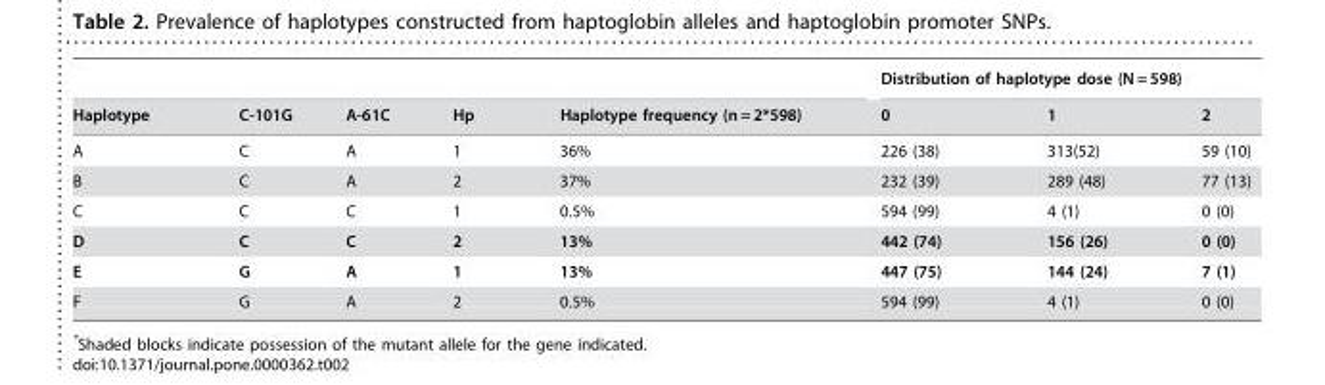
<table><thead><tr><td rowspan="2">Haplotype</td><td rowspan="2">C-101G</td><td rowspan="2">A-61C</td><td rowspan="2">Hp</td><td rowspan="2">Haplotype frequency (n = 2*598)</td><td colspan="3">Distribution of haplotype dose (N = 598)</td></tr><tr><td>0</td><td>1</td><td>2</td></tr></thead><tbody><tr><td>A</td><td>C</td><td>A</td><td>1</td><td>36%</td><td>226 (38)</td><td>313(52)</td><td>59 (10)</td></tr><tr><td>B</td><td>C</td><td>A</td><td>2</td><td>37%</td><td>232 (39)</td><td>289 (48)</td><td>77 (13)</td></tr><tr><td>C</td><td>C</td><td>C</td><td>1</td><td>0.5%</td><td>594 (99)</td><td>4 (1)</td><td>0 (0)</td></tr><tr><td>D</td><td>C</td><td>C</td><td>2</td><td>13%</td><td>442 (74)</td><td>156 (26)</td><td>0 (0)</td></tr><tr><td>E</td><td>G</td><td>A</td><td>1</td><td>13%</td><td>447 (75)</td><td>144 (24)</td><td>7 (1)</td></tr><tr><td>F</td><td>G</td><td>A</td><td>2</td><td>0.5%</td><td>594 (99)</td><td>4 (1)</td><td>0 (0)</td></tr></tbody></table>